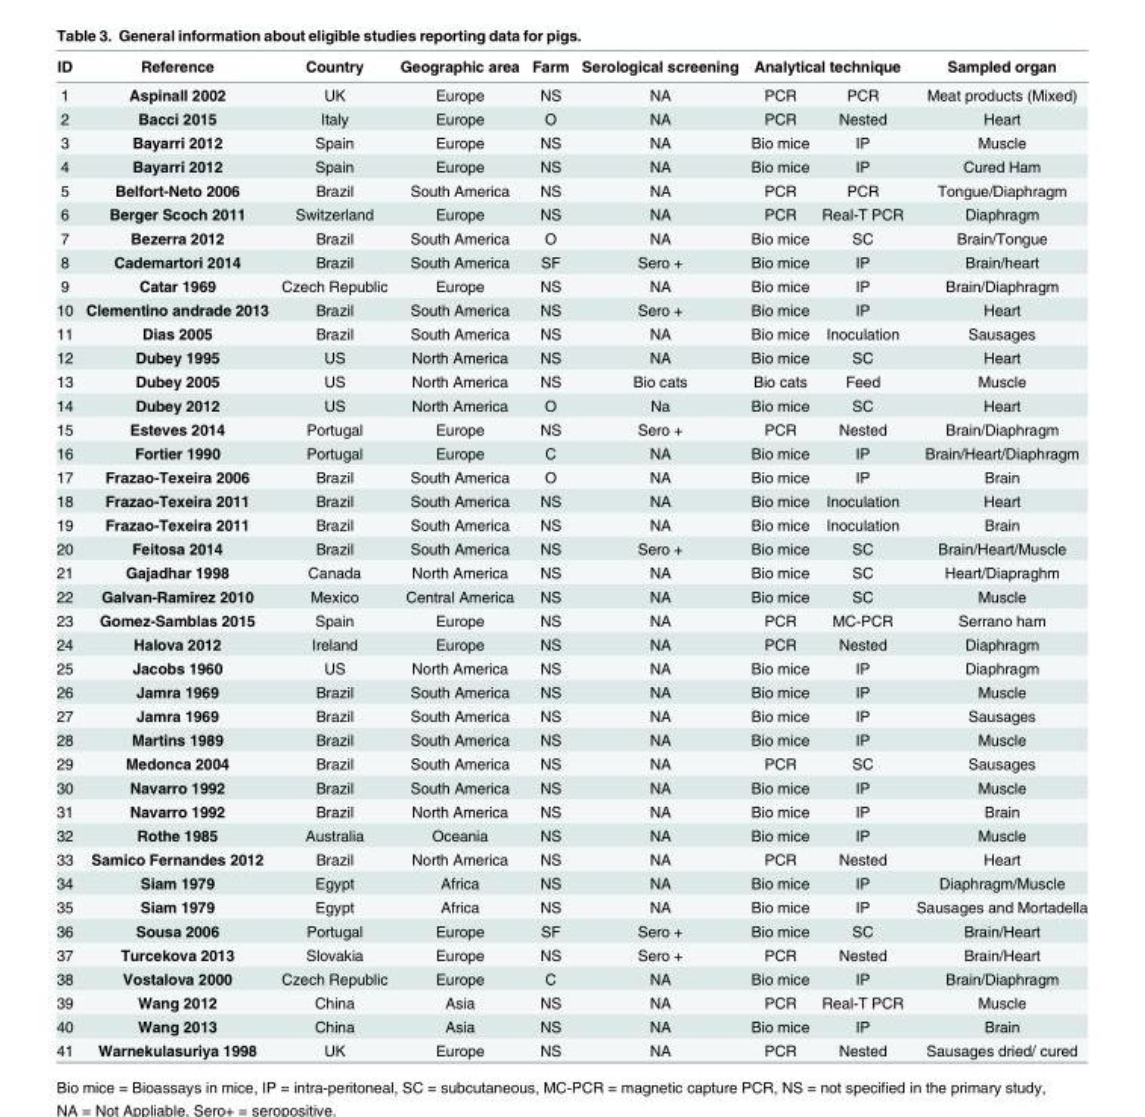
<table><thead><tr><td rowspan="2">ID 1</td><td rowspan="2">Reference Aspinall 2002</td><td rowspan="2">Country UK</td><td rowspan="2">Geographic area Europe</td><td rowspan="2">Farm NS</td><td rowspan="2">Serological screening NA</td><td colspan="2">Analytical technique</td><td rowspan="2">Sampled organ Meat products (Mixed)</td></tr><tr><td>PCR</td><td>PCR</td></tr></thead><tbody><tr><td>2</td><td>Bacci 2015</td><td>Italy</td><td>Europe</td><td>O</td><td>NA</td><td>PCR</td><td>Nested</td><td>Heart</td></tr><tr><td>3</td><td>Bayarri 2012</td><td>Spain</td><td>Europe</td><td>NS</td><td>NA</td><td>Bio mice</td><td>IP</td><td>Muscle</td></tr><tr><td>4</td><td>Bayarri 2012</td><td>Spain</td><td>Europe</td><td>NS</td><td>NA</td><td>Bio mice</td><td>IP</td><td>Cured Ham</td></tr><tr><td>5</td><td>Belfort-Neto 2006</td><td>Brazil</td><td>South America</td><td>NS</td><td>NA</td><td>PCR</td><td>PCR</td><td>Tongue/Diaphragm</td></tr><tr><td>6</td><td>Berger Scoch 2011</td><td>Switzerland</td><td>Europe</td><td>NS</td><td>NA</td><td>PCR</td><td>Real-T PCR</td><td>Diaphragm</td></tr><tr><td>7</td><td>Bezerra 2012</td><td>Brazil</td><td>South America</td><td>O</td><td>NA</td><td>Bio mice</td><td>SC</td><td>Brain/Tongue</td></tr><tr><td>8</td><td>Cademartori 2014</td><td>Brazil</td><td>South America</td><td>SF</td><td>Sero +</td><td>Bio mice</td><td>IP</td><td>Brain/heart</td></tr><tr><td>9</td><td>Catar 1969</td><td>Czech Republic</td><td>Europe</td><td>NS</td><td>NA</td><td>Bio mice</td><td>IP</td><td>Brain/Diaphragm</td></tr><tr><td>10</td><td>Clementino andrade 2013</td><td>Brazil</td><td>South America</td><td>NS</td><td>Sero +</td><td>Bio mice</td><td>IP</td><td>Heart</td></tr><tr><td>11</td><td>Dias 2005</td><td>Brazil</td><td>South America</td><td>NS</td><td>NA</td><td>Bio mice</td><td>Inoculation</td><td>Sausages</td></tr><tr><td>12</td><td>Dubey 1995</td><td>US</td><td>North America</td><td>NS</td><td>NA</td><td>Bio mice</td><td>SC</td><td>Heart</td></tr><tr><td>13</td><td>Dubey 2005</td><td>US</td><td>North America</td><td>NS</td><td>Bio cats</td><td>Bio cats</td><td>Feed</td><td>Muscle</td></tr><tr><td>14</td><td>Dubey 2012</td><td>US</td><td>North America</td><td>O</td><td>Na</td><td>Bio mice</td><td>SC</td><td>Heart</td></tr><tr><td>15</td><td>Esteves 2014</td><td>Portugal</td><td>Europe</td><td>NS</td><td>Sero +</td><td>PCR</td><td>Nested</td><td>Brain/Diaphragm</td></tr><tr><td>16</td><td>Fortier 1990</td><td>Portugal</td><td>Europe</td><td>C</td><td>NA</td><td>Bio mice</td><td>IP</td><td>Brain/Heart/Diaphragm</td></tr><tr><td>17</td><td>Frazao-Texeira 2006</td><td>Brazil</td><td>South America</td><td>O</td><td>NA</td><td>Bio mice</td><td>IP</td><td>Brain</td></tr><tr><td>18</td><td>Frazao-Texeira 2011</td><td>Brazil</td><td>South America</td><td>NS</td><td>NA</td><td>Bio mice</td><td>Inoculation</td><td>Heart</td></tr><tr><td>19</td><td>Frazao-Texeira 2011</td><td>Brazil</td><td>South America</td><td>NS</td><td>NA</td><td>Bio mice</td><td>Inoculation</td><td>Brain</td></tr><tr><td>20</td><td>Feitosa 2014</td><td>Brazil</td><td>South America</td><td>NS</td><td>Sero +</td><td>Bio mice</td><td>SC</td><td>Brain/Heart/Muscle</td></tr><tr><td>21</td><td>Gajadhar 1998</td><td>Canada</td><td>North America</td><td>NS</td><td>NA</td><td>Bio mice</td><td>SC</td><td>Heart/Diapraghm</td></tr><tr><td>22</td><td>Galvan-Ramirez 2010</td><td>Mexico</td><td>Central America</td><td>NS</td><td>NA</td><td>Bio mice</td><td>SC</td><td>Muscle</td></tr><tr><td>23</td><td>Gomez-Samblas 2015</td><td>Spain</td><td>Europe</td><td>NS</td><td>NA</td><td>PCR</td><td>MC-PCR</td><td>Serrano ham</td></tr><tr><td>24</td><td>Halova 2012</td><td>Ireland</td><td>Europe</td><td>NS</td><td>NA</td><td>PCR</td><td>Nested</td><td>Diaphragm</td></tr><tr><td>25</td><td>Jacobs 1960</td><td>US</td><td>North America</td><td>NS</td><td>NA</td><td>Bio mice</td><td>IP</td><td>Diaphragm</td></tr><tr><td>26</td><td>Jamra 1969</td><td>Brazil</td><td>South America</td><td>NS</td><td>NA</td><td>Bio mice</td><td>IP</td><td>Muscle</td></tr><tr><td>27</td><td>Jamra 1969</td><td>Brazil</td><td>South America</td><td>NS</td><td>NA</td><td>Bio mice</td><td>IP</td><td>Sausages</td></tr><tr><td>28</td><td>Martins 1989</td><td>Brazil</td><td>South America</td><td>NS</td><td>NA</td><td>Bio mice</td><td>IP</td><td>Muscle</td></tr><tr><td>29</td><td>Medonca 2004</td><td>Brazil</td><td>South America</td><td>NS</td><td>NA</td><td>PCR</td><td>SC</td><td>Sausages</td></tr><tr><td>30</td><td>Navarro 1992</td><td>Brazil</td><td>South America</td><td>NS</td><td>NA</td><td>Bio mice</td><td>IP</td><td>Muscle</td></tr><tr><td>31</td><td>Navarro 1992</td><td>Brazil</td><td>North America</td><td>NS</td><td>NA</td><td>Bio mice</td><td>IP</td><td>Brain</td></tr><tr><td>32</td><td>Rothe 1985</td><td>Australia</td><td>Oceania</td><td>NS</td><td>NA</td><td>Bio mice</td><td>IP</td><td>Muscle</td></tr><tr><td>33</td><td>Samico Fernandes 2012</td><td>Brazil</td><td>North America</td><td>NS</td><td>NA</td><td>PCR</td><td>Nested</td><td>Heart</td></tr><tr><td>34</td><td>Siam 1979</td><td>Egypt</td><td>Africa</td><td>NS</td><td>NA</td><td>Bio mice</td><td>IP</td><td>Diaphragm/Muscle</td></tr><tr><td>35</td><td>Siam 1979</td><td>Egypt</td><td>Africa</td><td>NS</td><td>NA</td><td>Bio mice</td><td>IP</td><td>Sausages and Mortadella</td></tr><tr><td>36</td><td>Sousa 2006</td><td>Portugal</td><td>Europe</td><td>SF</td><td>Sero +</td><td>Bio mice</td><td>SC</td><td>Brain/Heart</td></tr><tr><td>37</td><td>Turcekova 2013</td><td>Slovakia</td><td>Europe</td><td>NS</td><td>Sero +</td><td>PCR</td><td>Nested</td><td>Brain/Heart</td></tr><tr><td>38</td><td>Vostalova 2000</td><td>Czech Republic</td><td>Europe</td><td>C</td><td>NA</td><td>Bio mice</td><td>IP</td><td>Brain/Diaphragm</td></tr><tr><td>39</td><td>Wang 2012</td><td>China</td><td>Asia</td><td>NS</td><td>NA</td><td>PCR</td><td>Real-T PCR</td><td>Muscle</td></tr><tr><td>40</td><td>Wang 2013</td><td>China</td><td>Asia</td><td>NS</td><td>NA</td><td>Bio mice</td><td>IP</td><td>Brain</td></tr><tr><td>41</td><td>Warnekulasuriya 1998</td><td>UK</td><td>Europe</td><td>NS</td><td>NA</td><td>PCR</td><td>Nested</td><td>Sausages dried/ cured</td></tr></tbody></table>